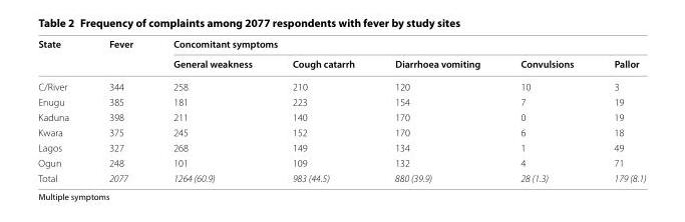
<table><thead><tr><td rowspan="2">State</td><td rowspan="2">Fever</td><td colspan="5">Concomitant symptoms</td></tr><tr><td>General weakness</td><td>Cough catarrh</td><td>Diarrhoea vomiting</td><td>Convulsions</td><td>Pallor</td></tr></thead><tbody><tr><td>C/River</td><td>344</td><td>258</td><td>210</td><td>120</td><td>10</td><td>3</td></tr><tr><td>Enugu</td><td>385</td><td>181</td><td>223</td><td>154</td><td>7</td><td>19</td></tr><tr><td>Kaduna</td><td>398</td><td>211</td><td>140</td><td>170</td><td>0</td><td>19</td></tr><tr><td>Kwara</td><td>375</td><td>245</td><td>152</td><td>170</td><td>6</td><td>18</td></tr><tr><td>Lagos</td><td>327</td><td>268</td><td>149</td><td>134</td><td>1</td><td>49</td></tr><tr><td>Ogun</td><td>248</td><td>101</td><td>109</td><td>132</td><td>4</td><td>71</td></tr><tr><td>Total</td><td>2077</td><td>1264 (60.9)</td><td>983 (44.5)</td><td>880 (39.9)</td><td>28 (1.3)</td><td>179 (8.1)</td></tr></tbody></table>